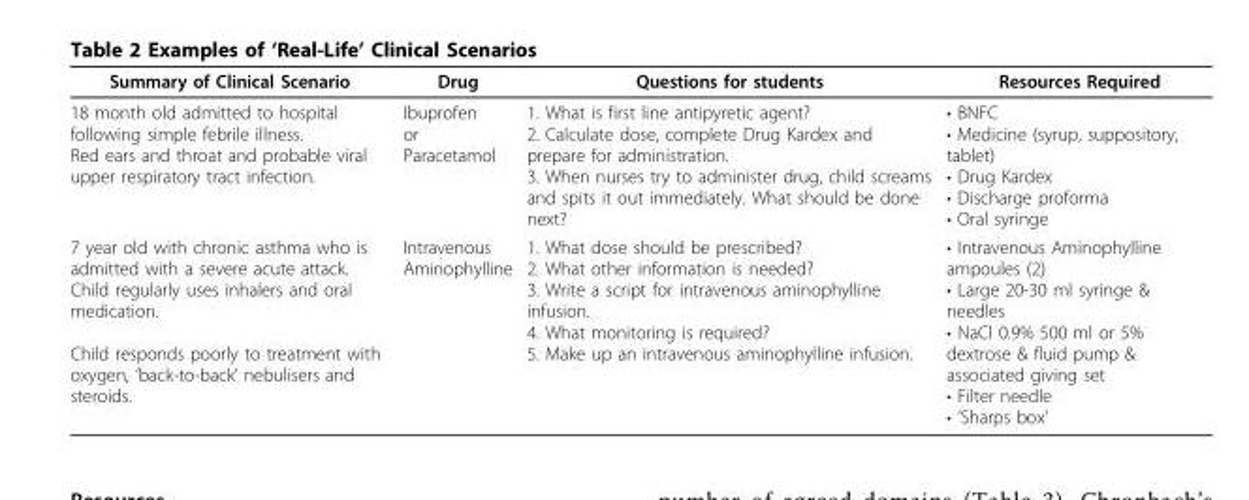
<table><thead><tr><td>Summary of Clinical Scenario</td><td>Drug</td><td>Questions for students</td><td>Resources Required</td></tr></thead><tbody><tr><td>18 month old admitted to hospital following simple febrile illness. Red ears and throat and probable viral upper respiratory tract infection.</td><td>Ibuprofen or Paracetamol</td><td>1. What is first line antipyretic agent? 2. Calculate dose, complete Drug Kardex and prepare for administration. 3. When nurses try to administer drug, child screams and spits it out immediately. What should be done next?</td><td>• BNFC • Medicine (syrup, suppository, tablet) • Drug Kardex • Discharge proforma • Oral syringe</td></tr><tr><td>7 year old with chronic asthma who is admitted with a severe acute attack. Child regularly uses inhalers and oral medication. Child responds poorly to treatment with oxygen, ‘back-to-back’ nebulisers and steroids.</td><td>Intravenous Aminophylline</td><td>1. What dose should be prescribed? 2. What other information is needed? 3. Write a script for intravenous aminophylline infusion. 4. What monitoring is required? 5. Make up an intravenous aminophylline infusion.</td><td>• Intravenous Aminophylline ampoules (2) • Large 20-30 ml syringe &amp; needles • NaCl 0.9% 500 ml or 5% dextrose &amp; fluid pump &amp; associated giving set • Filter needle • ‘Sharps box’</td></tr></tbody></table>